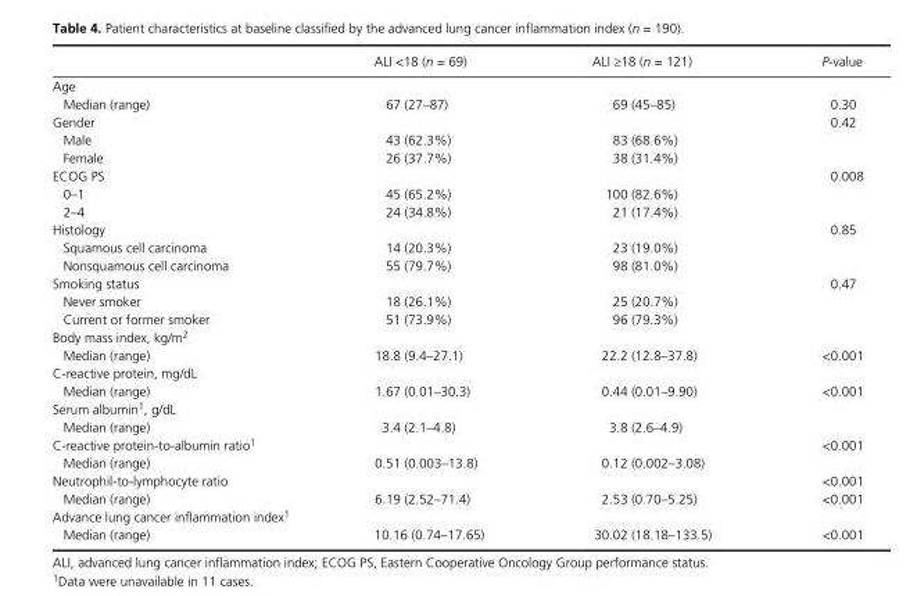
<table><thead><tr><td></td><td>ALI &lt;18 (n = 69)</td><td>ALI ≥18 (n = 121)</td><td>P- value</td></tr></thead><tbody><tr><td colspan="4">Age</td></tr><tr><td>Median (range)</td><td>67 (27–87)</td><td>69 (45–85)</td><td>0.30</td></tr><tr><td colspan="3">Gender</td><td>0.42</td></tr><tr><td>Male</td><td>43 (62.3%)</td><td>83 (68.6%)</td><td></td></tr><tr><td>Female</td><td>26 (37.7%)</td><td>38 (31.4%)</td><td></td></tr><tr><td colspan="3">ECOG PS</td><td>0.008</td></tr><tr><td>0–1</td><td>45 (65.2%)</td><td>100 (82.6%)</td><td></td></tr><tr><td>2–4</td><td>24 (34.8%)</td><td>21 (17.4%)</td><td></td></tr><tr><td colspan="3">Histology</td><td>0.85</td></tr><tr><td>Squamous cell carcinoma</td><td>14 (20.3%)</td><td>23 (19.0%)</td><td></td></tr><tr><td>Nonsquamous cell carcinoma</td><td>55 (79.7%)</td><td>98 (81.0%)</td><td></td></tr><tr><td colspan="3">Smoking status</td><td>0.47</td></tr><tr><td>Never smoker</td><td>18 (26.1%)</td><td>25 (20.7%)</td><td></td></tr><tr><td>Current or former smoker</td><td>51 (73.9%)</td><td>96 (79.3%)</td><td></td></tr><tr><td colspan="4">Body mass index, kg/m<sup>2</sup></td></tr><tr><td>Median (range)</td><td>18.8 (9.4–27.1)</td><td>22.2 (12.8–37.8)</td><td>&lt;0.001</td></tr><tr><td colspan="4">C- reactive protein, mg/dL</td></tr><tr><td>Median (range)</td><td>1.67 (0.01–30.3)</td><td>0.44 (0.01–9.90)</td><td>&lt;0.001</td></tr><tr><td colspan="4">Serum albumin1, g/dL</td></tr><tr><td>Median (range)</td><td>3.4 (2.1–4.8)</td><td>3.8 (2.6–4.9)</td><td></td></tr><tr><td colspan="3">C- reactive protein- to- albumin ratio1</td><td>&lt;0.001</td></tr><tr><td>Median (range)</td><td>0.51 (0.003–13.8)</td><td>0.12 (0.002–3.08)</td><td></td></tr><tr><td colspan="3">Neutrophil- to- lymphocyte ratio</td><td>&lt;0.001</td></tr><tr><td>Median (range)</td><td>6.19 (2.52–71.4)</td><td>2.53 (0.70–5.25)</td><td>&lt;0.001</td></tr><tr><td colspan="4">Advance lung cancer inflammation index1</td></tr><tr><td>Median (range)</td><td>10.16 (0.74–17.65)</td><td>30.02 (18.18–133.5)</td><td>&lt;0.001</td></tr></tbody></table>